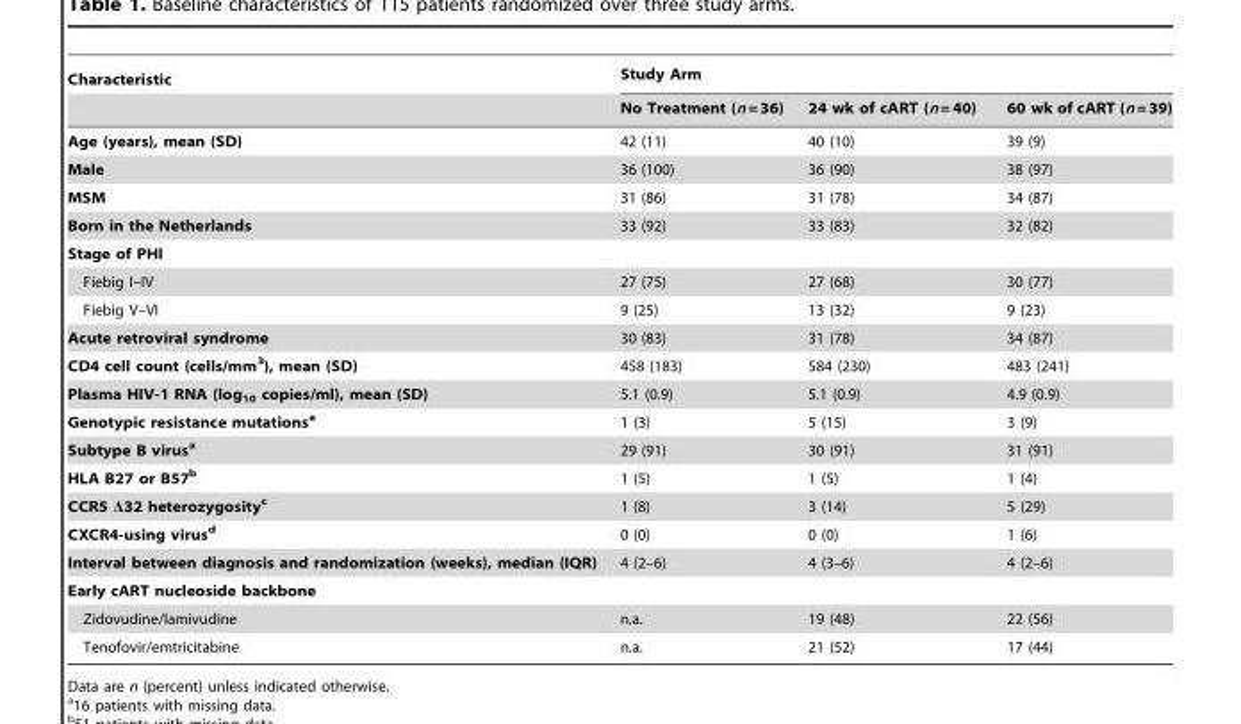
<table><thead><tr><td rowspan="2">Characteristic</td><td colspan="3">Study Arm</td></tr><tr><td>No Treatment (n = 36)</td><td>24 wk of cART (n = 40)</td><td>60 wk of cART (n = 39)</td></tr></thead><tbody><tr><td>Age (years), mean (SD)</td><td>42 (11)</td><td>40 (10)</td><td>39 (9)</td></tr><tr><td>Male</td><td>36 (100)</td><td>36 (90)</td><td>38 (97)</td></tr><tr><td>MSM</td><td>31 (86)</td><td>31 (78)</td><td>34 (87)</td></tr><tr><td>Born in the Netherlands</td><td>33 (92)</td><td>33 (83)</td><td>32 (82)</td></tr><tr><td colspan="4">Stage of PHI</td></tr><tr><td>Fiebig I–IV</td><td>27 (75)</td><td>27 (68)</td><td>30 (77)</td></tr><tr><td>Fiebig V–VI</td><td>9 (25)</td><td>13 (32)</td><td>9 (23)</td></tr><tr><td>Acute retroviral syndrome</td><td>30 (83)</td><td>31 (78)</td><td>34 (87)</td></tr><tr><td>CD4 cell count (cells/mm<sup>3</sup>), mean (SD)</td><td>458 (183)</td><td>584 (230)</td><td>483 (241)</td></tr><tr><td>Plasma HIV-1 RNA (log<sub>10</sub> copies/ml), mean (SD)</td><td>5.1 (0.9)</td><td>5.1 (0.9)</td><td>4.9 (0.9)</td></tr><tr><td>Genotypic resistance mutationsa</td><td>1 (3)</td><td>5 (15)</td><td>3 (9)</td></tr><tr><td>Subtype B virusa</td><td>29 (91)</td><td>30 (91)</td><td>31 (91)</td></tr><tr><td>HLA B27 or B57b</td><td>1 (5)</td><td>1 (5)</td><td>1 (4)</td></tr><tr><td>CCR5 Δ32 heterozygosityc</td><td>1 (8)</td><td>3 (14)</td><td>5 (29)</td></tr><tr><td>CXCR4-using virusd</td><td>0 (0)</td><td>0 (0)</td><td>1 (6)</td></tr><tr><td>Interval between diagnosis and randomization (weeks), median (IQR)</td><td>4 (2–6)</td><td>4 (3–6)</td><td>4 (2–6)</td></tr><tr><td colspan="4">Early cART nucleoside backbone</td></tr><tr><td>Zidovudine/lamivudine</td><td>n.a.</td><td>19 (48)</td><td>22 (56)</td></tr><tr><td>Tenofovir/emtricitabine</td><td>n.a.</td><td>21 (52)</td><td>17 (44)</td></tr></tbody></table>